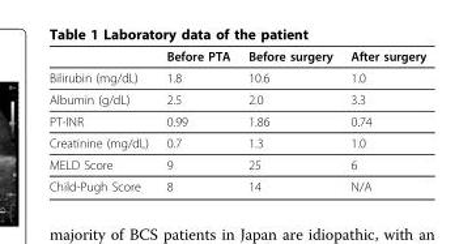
<table><thead><tr><td></td><td>Before PTA</td><td>Before surgery</td><td>After surgery</td></tr></thead><tbody><tr><td>Bilirubin (mg/dL)</td><td>1.8</td><td>10.6</td><td>1.0</td></tr><tr><td>Albumin (g/dL)</td><td>2.5</td><td>2.0</td><td>3.3</td></tr><tr><td>PT-INR</td><td>0.99</td><td>1.86</td><td>0.74</td></tr><tr><td>Creatinine (mg/dL)</td><td>0.7</td><td>1.3</td><td>1.0</td></tr><tr><td>MELD Score</td><td>9</td><td>25</td><td>6</td></tr><tr><td>Child-Pugh Score</td><td>8</td><td>14</td><td>N/A</td></tr></tbody></table>